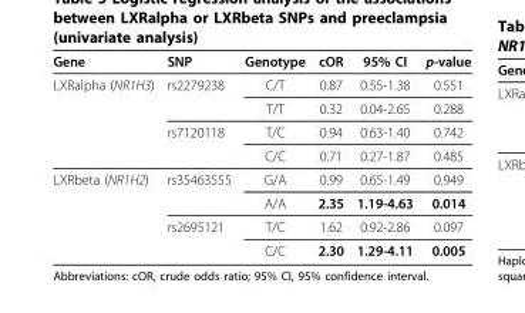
<table><thead><tr><td>Gene</td><td>SNP</td><td>Genotype</td><td>cOR</td><td>95% CI</td><td>p-value</td></tr></thead><tbody><tr><td rowspan="4">LXRalpha (NR1H3)</td><td>rs2279238</td><td>C/T</td><td>0.87</td><td>0.55-1.38</td><td>0.551</td></tr><tr><td></td><td>T/T</td><td>0.32</td><td>0.04-2.65</td><td>0.288</td></tr><tr><td>rs7120118</td><td>T/C</td><td>0.94</td><td>0.63-1.40</td><td>0.742</td></tr><tr><td></td><td>C/C</td><td>0.71</td><td>0.27-1.87</td><td>0.485</td></tr><tr><td rowspan="4">LXRbeta (NR1H2)</td><td>rs35463555</td><td>G/A</td><td>0.99</td><td>0.65-1.49</td><td>0.949</td></tr><tr><td></td><td>A/A</td><td>2.35</td><td>1.19-4.63</td><td>0.014</td></tr><tr><td>rs2695121</td><td>T/C</td><td>1.62</td><td>0.92-2.86</td><td>0.097</td></tr><tr><td></td><td>C/C</td><td>2.30</td><td>1.29-4.11</td><td>0.005</td></tr></tbody></table>